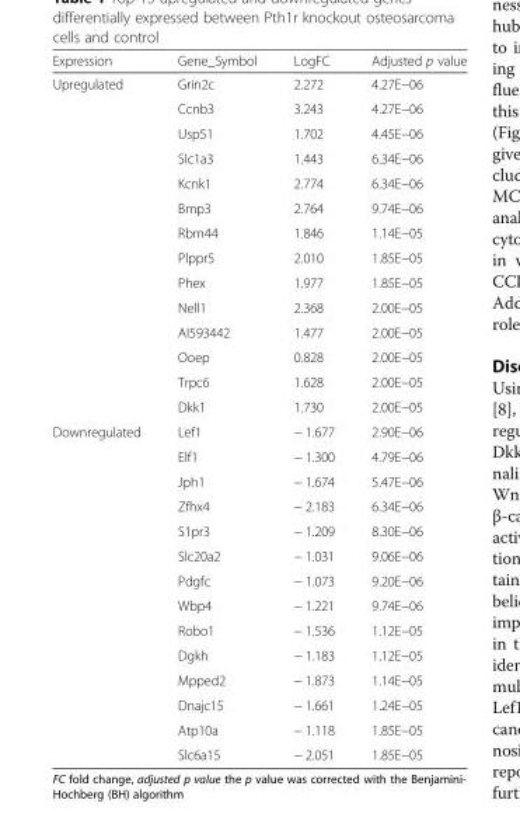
<table><thead><tr><td>Expression</td><td>Gene_Symbol</td><td>LogFC</td><td>Adjusted p value</td></tr></thead><tbody><tr><td rowspan="14">Upregulated</td><td>Grin2c</td><td>2.272</td><td>4.27E−06</td></tr><tr><td>Ccnb3</td><td>3.243</td><td>4.27E−06</td></tr><tr><td>Usp51</td><td>1.702</td><td>4.45E−06</td></tr><tr><td>Slc1a3</td><td>1.443</td><td>6.34E−06</td></tr><tr><td>Kcnk1</td><td>2.774</td><td>6.34E−06</td></tr><tr><td>Bmp3</td><td>2.764</td><td>9.74E−06</td></tr><tr><td>Rbm44</td><td>1.846</td><td>1.14E−05</td></tr><tr><td>Plppr5</td><td>2.010</td><td>1.85E−05</td></tr><tr><td>Phex</td><td>1.977</td><td>1.85E−05</td></tr><tr><td>Nell1</td><td>2.368</td><td>2.00E−05</td></tr><tr><td>AI593442</td><td>1.477</td><td>2.00E−05</td></tr><tr><td>Ooep</td><td>0.828</td><td>2.00E−05</td></tr><tr><td>Trpc6</td><td>1.628</td><td>2.00E−05</td></tr><tr><td>Dkk1</td><td>1.730</td><td>2.00E−05</td></tr><tr><td rowspan="14">Downregulated</td><td>Lef1</td><td>− 1.677</td><td>2.90E−06</td></tr><tr><td>Elf1</td><td>− 1.300</td><td>4.79E−06</td></tr><tr><td>Jph1</td><td>− 1.674</td><td>5.47E−06</td></tr><tr><td>Zfhx4</td><td>− 2.183</td><td>6.34E−06</td></tr><tr><td>S1pr3</td><td>− 1.209</td><td>8.30E−06</td></tr><tr><td>Slc20a2</td><td>− 1.031</td><td>9.06E−06</td></tr><tr><td>Pdgfc</td><td>− 1.073</td><td>9.20E−06</td></tr><tr><td>Wbp4</td><td>− 1.221</td><td>9.74E−06</td></tr><tr><td>Robo1</td><td>− 1.536</td><td>1.12E−05</td></tr><tr><td>Dgkh</td><td>− 1.183</td><td>1.12E−05</td></tr><tr><td>Mpped2</td><td>− 1.873</td><td>1.14E−05</td></tr><tr><td>Dnajc15</td><td>− 1.661</td><td>1.24E−05</td></tr><tr><td>Atp10a</td><td>− 1.118</td><td>1.85E−05</td></tr><tr><td>Slc6a15</td><td>− 2.051</td><td>1.85E−05</td></tr></tbody></table>